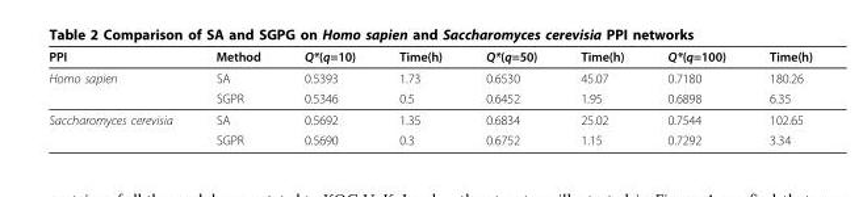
<table><thead><tr><td>PPI</td><td>Method</td><td>Q*(q=10)</td><td>Time(h)</td><td>Q*(q=50)</td><td>Time(h)</td><td>Q*(q=100)</td><td>Time(h)</td></tr></thead><tbody><tr><td rowspan="2">Homo sapien</td><td>SA</td><td>0.5393</td><td>1.73</td><td>0.6530</td><td>45.07</td><td>0.7180</td><td>180.26</td></tr><tr><td>SGPR</td><td>0.5346</td><td>0.5</td><td>0.6452</td><td>1.95</td><td>0.6898</td><td>6.35</td></tr><tr><td rowspan="2">Saccharomyces cerevisia</td><td>SA</td><td>0.5692</td><td>1.35</td><td>0.6834</td><td>25.02</td><td>0.7544</td><td>102.65</td></tr><tr><td>SGPR</td><td>0.5690</td><td>0.3</td><td>0.6752</td><td>1.15</td><td>0.7292</td><td>3.34</td></tr></tbody></table>